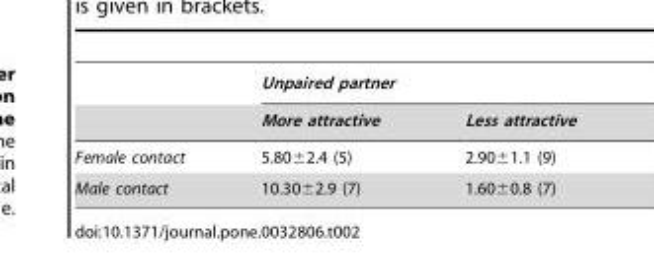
<table><thead><tr><td rowspan="2"></td><td colspan="2">Unpaired partner</td></tr><tr><td>More attractive</td><td>Less attractive</td></tr></thead><tbody><tr><td>Female contact</td><td>5.80±2.4 (5)</td><td>2.90±1.1 (9)</td></tr><tr><td>Male contact</td><td>10.30±2.9 (7)</td><td>1.60±0.8 (7)</td></tr></tbody></table>